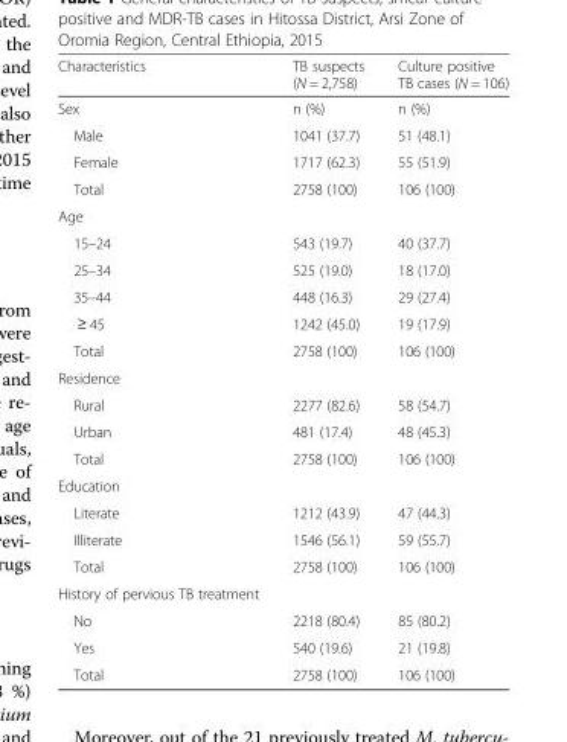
<table><thead><tr><td>Characteristics</td><td>TB suspects (N = 2,758)</td><td>Culture positive TB cases (N = 106)</td></tr></thead><tbody><tr><td>Sex</td><td>n (%)</td><td>n (%)</td></tr><tr><td>Male</td><td>1041 (37.7)</td><td>51 (48.1)</td></tr><tr><td>Female</td><td>1717 (62.3)</td><td>55 (51.9)</td></tr><tr><td>Total</td><td>2758 (100)</td><td>106 (100)</td></tr><tr><td colspan="3">Age</td></tr><tr><td>15–24</td><td>543 (19.7)</td><td>40 (37.7)</td></tr><tr><td>25–34</td><td>525 (19.0)</td><td>18 (17.0)</td></tr><tr><td>35–44</td><td>448 (16.3)</td><td>29 (27.4)</td></tr><tr><td>≥ 45</td><td>1242 (45.0)</td><td>19 (17.9)</td></tr><tr><td>Total</td><td>2758 (100)</td><td>106 (100)</td></tr><tr><td colspan="3">Residence</td></tr><tr><td>Rural</td><td>2277 (82.6)</td><td>58 (54.7)</td></tr><tr><td>Urban</td><td>481 (17.4)</td><td>48 (45.3)</td></tr><tr><td>Total</td><td>2758 (100)</td><td>106 (100)</td></tr><tr><td colspan="3">Education</td></tr><tr><td>Literate</td><td>1212 (43.9)</td><td>47 (44.3)</td></tr><tr><td>Illiterate</td><td>1546 (56.1)</td><td>59 (55.7)</td></tr><tr><td>Total</td><td>2758 (100)</td><td>106 (100)</td></tr><tr><td colspan="3">History of pervious TB treatment</td></tr><tr><td>No</td><td>2218 (80.4)</td><td>85 (80.2)</td></tr><tr><td>Yes</td><td>540 (19.6)</td><td>21 (19.8)</td></tr><tr><td>Total</td><td>2758 (100)</td><td>106 (100)</td></tr></tbody></table>